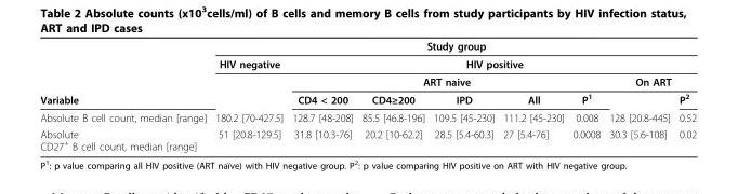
<table><thead><tr><td rowspan="4">Variable</td><td colspan="8">Study group</td></tr><tr><td rowspan="3">HIV negative</td><td colspan="7">HIV positive</td></tr><tr><td colspan="5">ART naive</td><td colspan="2">On ART</td></tr><tr><td>CD4 &lt; 200</td><td>CD4≥200</td><td>IPD</td><td>All</td><td>P<sup>1</sup></td><td></td><td>P<sup>2</sup></td></tr></thead><tbody><tr><td>Absolute B cell count, median [range]</td><td>180.2 [70-427.5]</td><td>128.7 [48-208]</td><td>85.5 [46.8-196]</td><td>109.5 [45-230]</td><td>111.2 [45-230]</td><td>0.008</td><td>128 [20.8-445]</td><td>0.52</td></tr><tr><td>Absolute CD27<sup>+</sup> B cell count, median [range]</td><td>51 [20.8-129.5]</td><td>31.8 [10.3-76]</td><td>20.2 [10-62.2]</td><td>28.5 [5.4-60.3]</td><td>27 [5.4-76]</td><td>0.0008</td><td>30.3 [5.6-108]</td><td>0.02</td></tr></tbody></table>